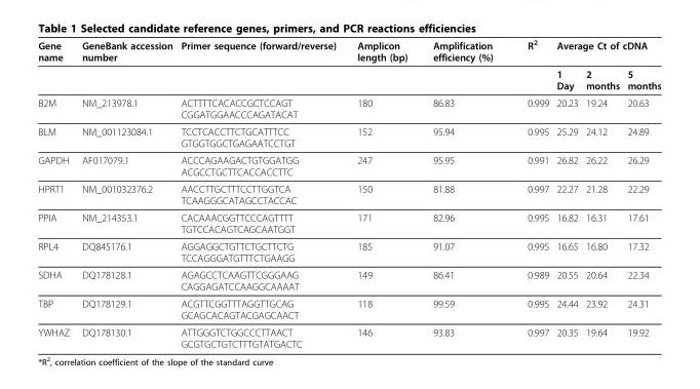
<table><thead><tr><td rowspan="2">Gene name</td><td rowspan="2">GeneBank accession number</td><td rowspan="2">Primer sequence (forward/reverse)</td><td rowspan="2">Amplicon length (bp)</td><td rowspan="2">Amplification efficiency (%)</td><td rowspan="2">R<sup>2</sup></td><td colspan="3">Average Ct of cDNA</td></tr><tr><td>1 Day</td><td>2 months</td><td>5 months</td></tr></thead><tbody><tr><td>B2M</td><td>NM_213978.1</td><td>ACTTTTCACACCGCTCCAGT CGGATGGAACCCAGATACAT</td><td>180</td><td>86.83</td><td>0.999</td><td>20.23</td><td>19.24</td><td>20.63</td></tr><tr><td>BLM</td><td>NM_001123084.1</td><td>TCCTCACCTTCTGCATTTCC GTGGTGGCTGAGAATCCTGT</td><td>152</td><td>95.94</td><td>0.995</td><td>25.29</td><td>24.12</td><td>24.89</td></tr><tr><td>GAPDH</td><td>AF017079.1</td><td>ACCCAGAAGACTGTGGATGG ACGCCTGCTTCACCACCTTC</td><td>247</td><td>95.95</td><td>0.991</td><td>26.82</td><td>26.22</td><td>26.29</td></tr><tr><td>HPRT1</td><td>NM_001032376.2</td><td>AACCTTGCTTTCCTTGGTCA TCAAGGGCATAGCCTACCAC</td><td>150</td><td>81.88</td><td>0.997</td><td>22.27</td><td>21.28</td><td>22.29</td></tr><tr><td>PPIA</td><td>NM_214353.1</td><td>CACAAACGGTTCCCAGTTTT TGTCCACAGTCAGCAATGGT</td><td>171</td><td>82.96</td><td>0.995</td><td>16.82</td><td>16.31</td><td>17.61</td></tr><tr><td>RPL4</td><td>DQ845176.1</td><td>AGGAGGCTGTTCTGCTTCTG TCCAGGGATGTTTCTGAAGG</td><td>185</td><td>91.07</td><td>0.995</td><td>16.65</td><td>16.80</td><td>17.32</td></tr><tr><td>SDHA</td><td>DQ178128.1</td><td>AGAGCCTCAAGTTCGGGAAG CAGGAGATCCAAGGCAAAAT</td><td>149</td><td>86.41</td><td>0.989</td><td>20.55</td><td>20.64</td><td>22.34</td></tr><tr><td>TBP</td><td>DQ178129.1</td><td>ACGTTCGGTTTAGGTTGCAG GCAGCACAGTACGAGCAACT</td><td>118</td><td>99.59</td><td>0.995</td><td>24.44</td><td>23.92</td><td>24.31</td></tr><tr><td>YWHAZ</td><td>DQ178130.1</td><td>ATTGGGTCTGGCCCTTAACT GCGTGCTGTCTTTGTATGACTC</td><td>146</td><td>93.83</td><td>0.997</td><td>20.35</td><td>19.64</td><td>19.92</td></tr></tbody></table>